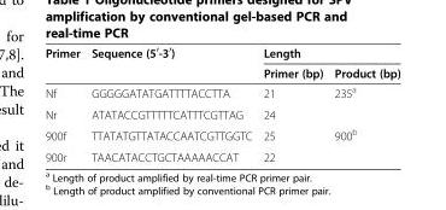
<table><thead><tr><td rowspan="2">Primer</td><td rowspan="2">Sequence (5<sup>′</sup>-3<sup>′</sup>)</td><td colspan="2">Length</td></tr><tr><td>Primer (bp)</td><td>Product (bp)</td></tr></thead><tbody><tr><td>Nf</td><td>GGGGGATATGATTTTACCTTA</td><td>21</td><td>235<sup>a</sup></td></tr><tr><td>Nr</td><td>ATATACCGTTTTTCATTTCGTTAG</td><td>24</td><td></td></tr><tr><td>900f</td><td>TTATATGTTATACCAATCGTTGGTC</td><td>25</td><td>900<sup>b</sup></td></tr><tr><td>900r</td><td>TAACATACCTGCTAAAAACCAT</td><td>22</td><td></td></tr></tbody></table>